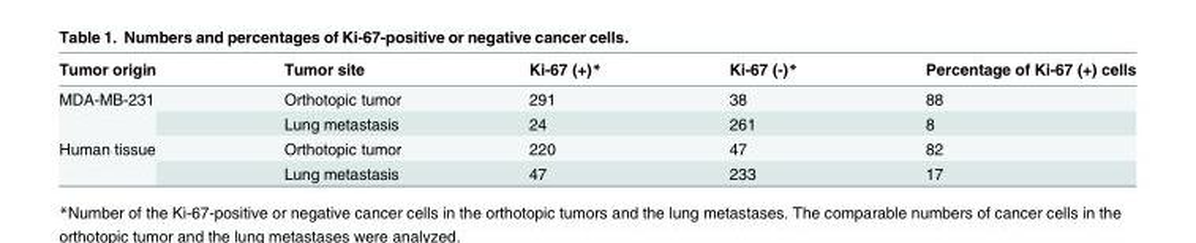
<table><thead><tr><td>Tumor origin</td><td>Tumor site</td><td>Ki-67 (+)*</td><td>Ki-67 (-)*</td><td>Percentage of Ki-67 (+) cells</td></tr></thead><tbody><tr><td rowspan="2">MDA-MB-231</td><td>Orthotopic tumor</td><td>291</td><td>38</td><td>88</td></tr><tr><td>Lung metastasis</td><td>24</td><td>261</td><td>8</td></tr><tr><td rowspan="2">Human tissue</td><td>Orthotopic tumor</td><td>220</td><td>47</td><td>82</td></tr><tr><td>Lung metastasis</td><td>47</td><td>233</td><td>17</td></tr></tbody></table>